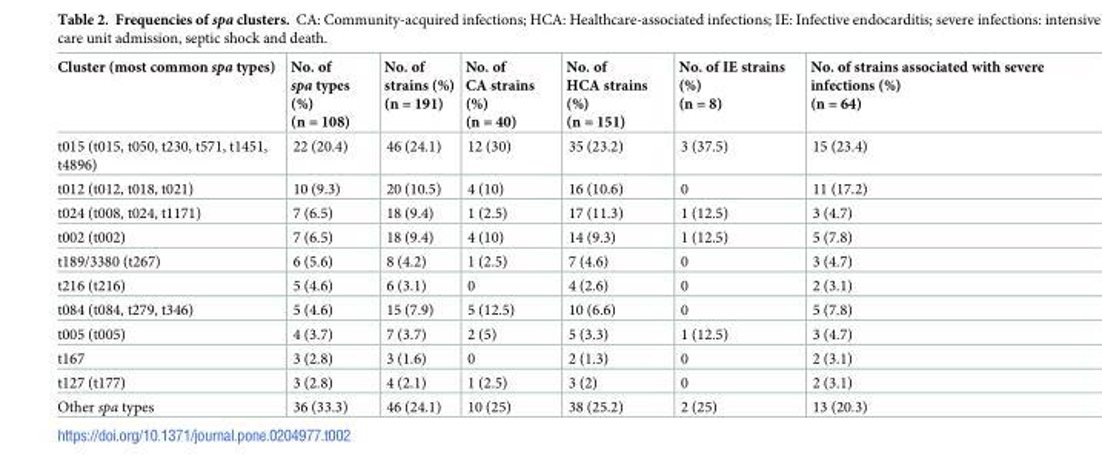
<table><thead><tr><td>Cluster (most common spa types)</td><td>No. of spa types (%) (n = 108)</td><td>No. of strains (%) (n = 191)</td><td>No. of CA strains (%) (n = 40)</td><td>No. of HCA strains (%) (n = 151)</td><td>No. of IE strains (%) (n = 8)</td><td>No. of strains associated with severe infections (%) (n = 64)</td></tr></thead><tbody><tr><td>t015 (t015, t050, t230, t571, t1451, t4896)</td><td>22 (20.4)</td><td>46 (24.1)</td><td>12 (30)</td><td>35 (23.2)</td><td>3 (37.5)</td><td>15 (23.4)</td></tr><tr><td>t012 (t012, t018, t021)</td><td>10 (9.3)</td><td>20 (10.5)</td><td>4 (10)</td><td>16 (10.6)</td><td>0</td><td>11 (17.2)</td></tr><tr><td>t024 (t008, t024, t1171)</td><td>7 (6.5)</td><td>18 (9.4)</td><td>1 (2.5)</td><td>17 (11.3)</td><td>1 (12.5)</td><td>3 (4.7)</td></tr><tr><td>t002 (t002)</td><td>7 (6.5)</td><td>18 (9.4)</td><td>4 (10)</td><td>14 (9.3)</td><td>1 (12.5)</td><td>5 (7.8)</td></tr><tr><td>t189/3380 (t267)</td><td>6 (5.6)</td><td>8 (4.2)</td><td>1 (2.5)</td><td>7 (4.6)</td><td>0</td><td>3 (4.7)</td></tr><tr><td>t216 (t216)</td><td>5 (4.6)</td><td>6 (3.1)</td><td>0</td><td>4 (2.6)</td><td>0</td><td>2 (3.1)</td></tr><tr><td>t084 (t084, t279, t346)</td><td>5 (4.6)</td><td>15 (7.9)</td><td>5 (12.5)</td><td>10 (6.6)</td><td>0</td><td>5 (7.8)</td></tr><tr><td>t005 (t005)</td><td>4 (3.7)</td><td>7 (3.7)</td><td>2 (5)</td><td>5 (3.3)</td><td>1 (12.5)</td><td>3 (4.7)</td></tr><tr><td>t167</td><td>3 (2.8)</td><td>3 (1.6)</td><td>0</td><td>2 (1.3)</td><td>0</td><td>2 (3.1)</td></tr><tr><td>t127 (t177)</td><td>3 (2.8)</td><td>4 (2.1)</td><td>1 (2.5)</td><td>3 (2)</td><td>0</td><td>2 (3.1)</td></tr><tr><td>Other spa types</td><td>36 (33.3)</td><td>46 (24.1)</td><td>10 (25)</td><td>38 (25.2)</td><td>2 (25)</td><td>13 (20.3)</td></tr></tbody></table>